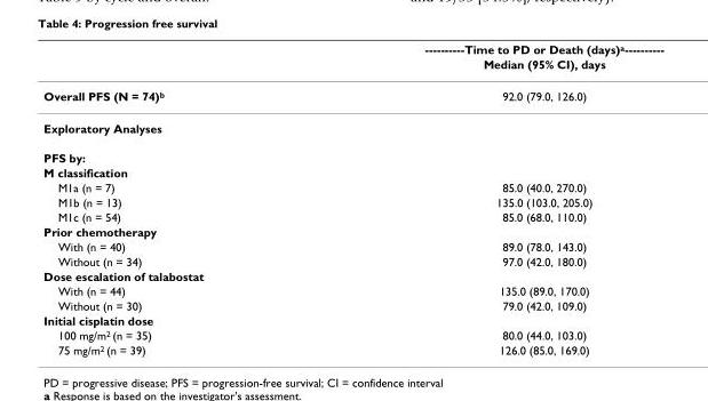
<table><thead><tr><td rowspan="2"></td><td rowspan="2">----------Time to PD or Death (days)a---------- Median (95% CI), days</td></tr><tr></tr></thead><tbody><tr><td>Overall PFS (N = 74)b</td><td>92.0 (79.0, 126.0)</td></tr><tr><td colspan="2">Exploratory Analyses</td></tr><tr><td colspan="2">PFS by:</td></tr><tr><td colspan="2">M classification</td></tr><tr><td>M1a (n = 7)</td><td>85.0 (40.0, 270.0)</td></tr><tr><td>M1b (n = 13)</td><td>135.0 (103.0, 205.0)</td></tr><tr><td>M1c (n = 54)</td><td>85.0 (68.0, 110.0)</td></tr><tr><td colspan="2">Prior chemotherapy</td></tr><tr><td>With (n = 40)</td><td>89.0 (78.0, 143.0)</td></tr><tr><td>Without (n = 34)</td><td>97.0 (42.0, 180.0)</td></tr><tr><td colspan="2">Dose escalation of talabostat</td></tr><tr><td>With (n = 44)</td><td>135.0 (89.0, 170.0)</td></tr><tr><td>Without (n = 30)</td><td>79.0 (42.0, 109.0)</td></tr><tr><td colspan="2">Initial cisplatin dose</td></tr><tr><td>100 mg/m<sup>2</sup> (n = 35)</td><td>80.0 (44.0, 103.0)</td></tr><tr><td>75 mg/m<sup>2</sup> (n = 39)</td><td>126.0 (85.0, 169.0)</td></tr></tbody></table>